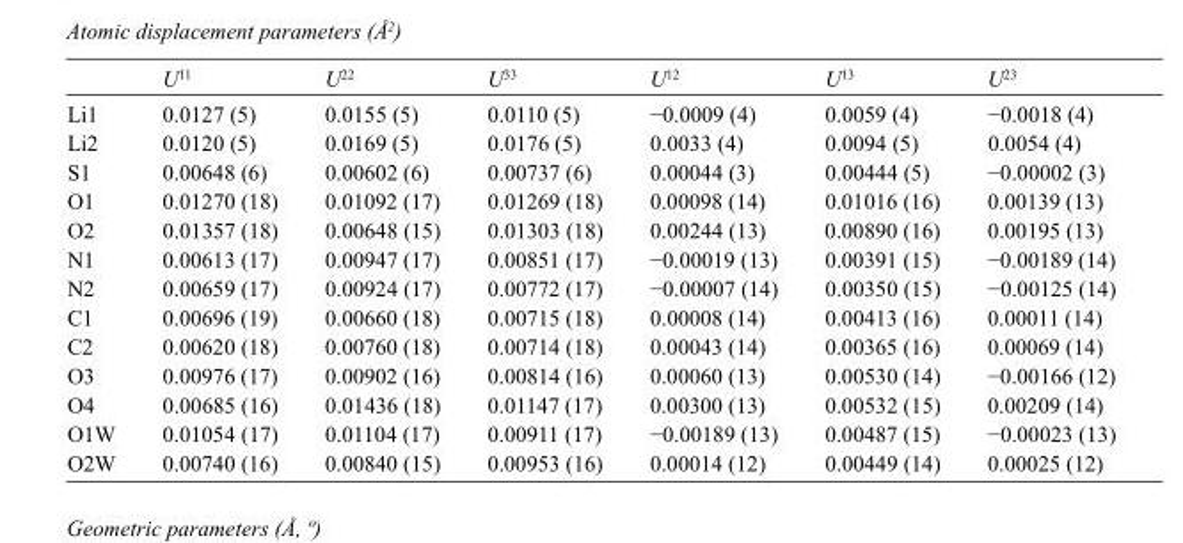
<table><thead><tr><td></td><td>U<sup>11</sup></td><td>U<sup>22</sup></td><td>U<sup>33</sup></td><td>U<sup>12</sup></td><td>U<sup>13</sup></td><td>U<sup>23</sup></td></tr></thead><tbody><tr><td>Li1</td><td>0.0127 (5)</td><td>0.0155 (5)</td><td>0.0110 (5)</td><td>−0.0009 (4)</td><td>0.0059 (4)</td><td>−0.0018 (4)</td></tr><tr><td>Li2</td><td>0.0120 (5)</td><td>0.0169 (5)</td><td>0.0176 (5)</td><td>0.0033 (4)</td><td>0.0094 (5)</td><td>0.0054 (4)</td></tr><tr><td>S1</td><td>0.00648 (6)</td><td>0.00602 (6)</td><td>0.00737 (6)</td><td>0.00044 (3)</td><td>0.00444 (5)</td><td>−0.00002 (3)</td></tr><tr><td>O1</td><td>0.01270 (18)</td><td>0.01092 (17)</td><td>0.01269 (18)</td><td>0.00098 (14)</td><td>0.01016 (16)</td><td>0.00139 (13)</td></tr><tr><td>O2</td><td>0.01357 (18)</td><td>0.00648 (15)</td><td>0.01303 (18)</td><td>0.00244 (13)</td><td>0.00890 (16)</td><td>0.00195 (13)</td></tr><tr><td>N1</td><td>0.00613 (17)</td><td>0.00947 (17)</td><td>0.00851 (17)</td><td>−0.00019 (13)</td><td>0.00391 (15)</td><td>−0.00189 (14)</td></tr><tr><td>N2</td><td>0.00659 (17)</td><td>0.00924 (17)</td><td>0.00772 (17)</td><td>−0.00007 (14)</td><td>0.00350 (15)</td><td>−0.00125 (14)</td></tr><tr><td>C1</td><td>0.00696 (19)</td><td>0.00660 (18)</td><td>0.00715 (18)</td><td>0.00008 (14)</td><td>0.00413 (16)</td><td>0.00011 (14)</td></tr><tr><td>C2</td><td>0.00620 (18)</td><td>0.00760 (18)</td><td>0.00714 (18)</td><td>0.00043 (14)</td><td>0.00365 (16)</td><td>0.00069 (14)</td></tr><tr><td>O3</td><td>0.00976 (17)</td><td>0.00902 (16)</td><td>0.00814 (16)</td><td>0.00060 (13)</td><td>0.00530 (14)</td><td>−0.00166 (12)</td></tr><tr><td>O4</td><td>0.00685 (16)</td><td>0.01436 (18)</td><td>0.01147 (17)</td><td>0.00300 (13)</td><td>0.00532 (15)</td><td>0.00209 (14)</td></tr><tr><td>O1W</td><td>0.01054 (17)</td><td>0.01104 (17)</td><td>0.00911 (17)</td><td>−0.00189 (13)</td><td>0.00487 (15)</td><td>−0.00023 (13)</td></tr><tr><td>O2W</td><td>0.00740 (16)</td><td>0.00840 (15)</td><td>0.00953 (16)</td><td>0.00014 (12)</td><td>0.00449 (14)</td><td>0.00025 (12)</td></tr></tbody></table>